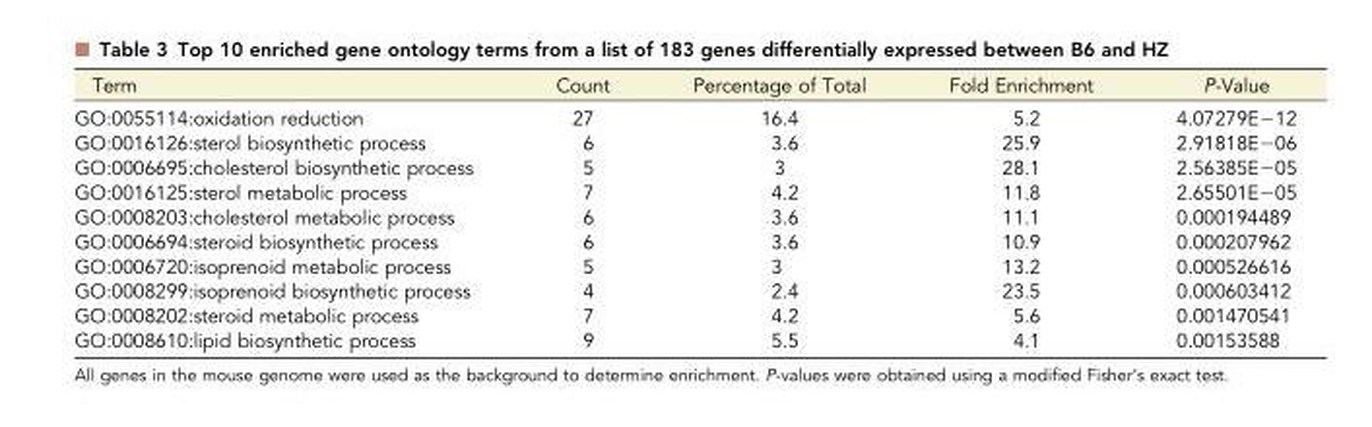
<table><thead><tr><td>Term</td><td>Count</td><td>Percentage of Total</td><td>Fold Enrichment</td><td>P-Value</td></tr></thead><tbody><tr><td>GO:0055114:oxidation reduction</td><td>27</td><td>16.4</td><td>5.2</td><td>4.07279E−12</td></tr><tr><td>GO:0016126:sterol biosynthetic process</td><td>6</td><td>3.6</td><td>25.9</td><td>2.91818E−06</td></tr><tr><td>GO:0006695:cholesterol biosynthetic process</td><td>5</td><td>3</td><td>28.1</td><td>2.56385E−05</td></tr><tr><td>GO:0016125:sterol metabolic process</td><td>7</td><td>4.2</td><td>11.8</td><td>2.65501E−05</td></tr><tr><td>GO:0008203:cholesterol metabolic process</td><td>6</td><td>3.6</td><td>11.1</td><td>0.000194489</td></tr><tr><td>GO:0006694:steroid biosynthetic process</td><td>6</td><td>3.6</td><td>10.9</td><td>0.000207962</td></tr><tr><td>GO:0006720:isoprenoid metabolic process</td><td>5</td><td>3</td><td>13.2</td><td>0.000526616</td></tr><tr><td>GO:0008299:isoprenoid biosynthetic process</td><td>4</td><td>2.4</td><td>23.5</td><td>0.000603412</td></tr><tr><td>GO:0008202:steroid metabolic process</td><td>7</td><td>4.2</td><td>5.6</td><td>0.001470541</td></tr><tr><td>GO:0008610:lipid biosynthetic process</td><td>9</td><td>5.5</td><td>4.1</td><td>0.00153588</td></tr></tbody></table>